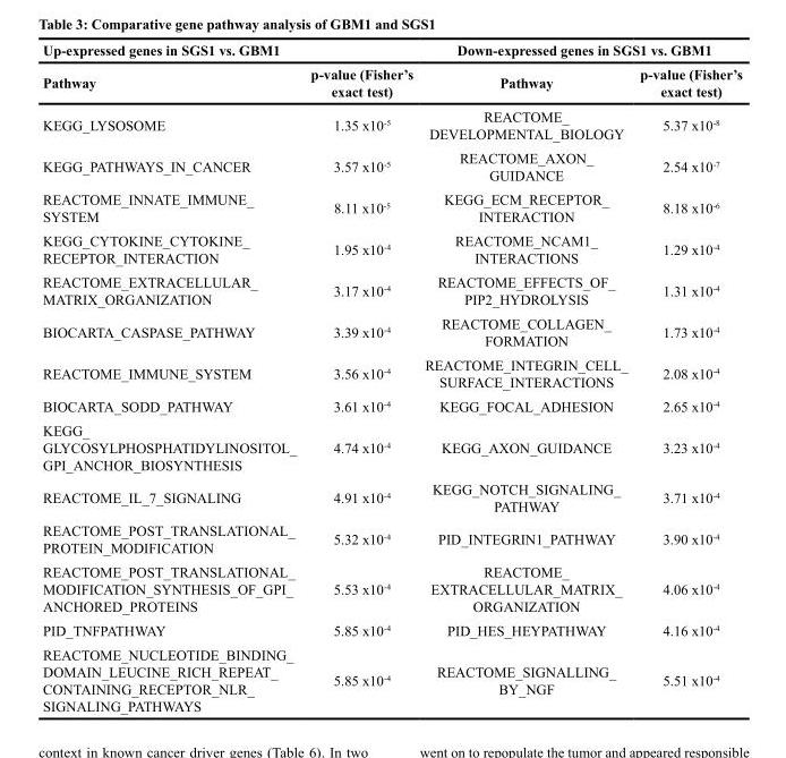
<table><thead><tr><td rowspan="2">Up-expressed genes in SGS1 vs. GBM1 Pathway</td><td colspan="3">Down-expressed genes in SGS1 vs. GBM1</td></tr><tr><td>p-value (Fisher’s exact test)</td><td>Pathway</td><td>p-value (Fisher’s exact test)</td></tr></thead><tbody><tr><td>KEGG_LYSOSOME</td><td>1.35 x10<sup>-5</sup></td><td>REACTOME_ DEVELOPMENTAL_BIOLOGY</td><td>5.37 x10<sup>-8</sup></td></tr><tr><td>KEGG_PATHWAYS_IN_CANCER</td><td>3.57 x10<sup>-5</sup></td><td>REACTOME_AXON_ GUIDANCE</td><td>2.54 x10<sup>-7</sup></td></tr><tr><td>REACTOME_INNATE_IMMUNE_ SYSTEM</td><td>8.11 x10<sup>-5</sup></td><td>KEGG_ECM_RECEPTOR_ INTERACTION</td><td>8.18 x10<sup>-6</sup></td></tr><tr><td>KEGG_CYTOKINE_CYTOKINE_ RECEPTOR_INTERACTION</td><td>1.95 x10<sup>-4</sup></td><td>REACTOME_NCAM1_ INTERACTIONS</td><td>1.29 x10<sup>-4</sup></td></tr><tr><td>REACTOME_EXTRACELLULAR_ MATRIX_ORGANIZATION</td><td>3.17 x10<sup>-4</sup></td><td>REACTOME_EFFECTS_OF_ PIP2_HYDROLYSIS</td><td>1.31 x10<sup>-4</sup></td></tr><tr><td>BIOCARTA_CASPASE_PATHWAY</td><td>3.39 x10<sup>-4</sup></td><td>REACTOME_COLLAGEN_ FORMATION</td><td>1.73 x10<sup>-4</sup></td></tr><tr><td>REACTOME_IMMUNE_SYSTEM</td><td>3.56 x10<sup>-4</sup></td><td>REACTOME_INTEGRIN_CELL_ SURFACE_INTERACTIONS</td><td>2.08 x10<sup>-4</sup></td></tr><tr><td>BIOCARTA_SODD_PATHWAY</td><td>3.61 x10<sup>-4</sup></td><td>KEGG_FOCAL_ADHESION</td><td>2.65 x10<sup>-4</sup></td></tr><tr><td>KEGG_ GLYCOSYLPHOSPHATIDYLINOSITOL_ GPI_ANCHOR_BIOSYNTHESIS</td><td>4.74 x10<sup>-4</sup></td><td>KEGG_AXON_GUIDANCE</td><td>3.23 x10<sup>-4</sup></td></tr><tr><td>REACTOME_IL_7_SIGNALING</td><td>4.91 x10<sup>-4</sup></td><td>KEGG_NOTCH_SIGNALING_ PATHWAY</td><td>3.71 x10<sup>-4</sup></td></tr><tr><td>REACTOME_POST_TRANSLATIONAL_ PROTEIN_MODIFICATION</td><td>5.32 x10<sup>-4</sup></td><td>PID_INTEGRIN1_PATHWAY</td><td>3.90 x10<sup>-4</sup></td></tr><tr><td>REACTOME_POST_TRANSLATIONAL_ MODIFICATION_SYNTHESIS_OF_GPI_ ANCHORED_PROTEINS</td><td>5.53 x10<sup>-4</sup></td><td>REACTOME_ EXTRACELLULAR_MATRIX_ ORGANIZATION</td><td>4.06 x10<sup>-4</sup></td></tr><tr><td>PID_TNFPATHWAY</td><td>5.85 x10<sup>-4</sup></td><td>PID_HES_HEYPATHWAY</td><td>4.16 x10<sup>-4</sup></td></tr><tr><td>REACTOME_NUCLEOTIDE_BINDING_ DOMAIN_LEUCINE_RICH_REPEAT_ CONTAINING_RECEPTOR_NLR_ SIGNALING_PATHWAYS</td><td>5.85 x10<sup>-4</sup></td><td>REACTOME_SIGNALLING_ BY_NGF</td><td>5.51 x10<sup>-4</sup></td></tr></tbody></table>